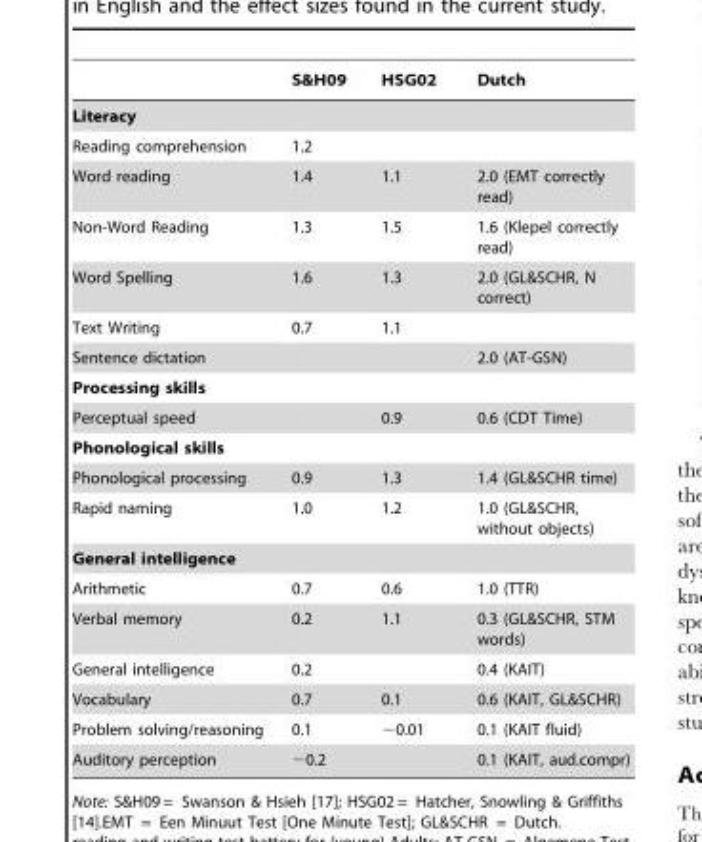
<table><thead><tr><td></td><td>S&amp;H09</td><td>HSG02</td><td>Dutch</td></tr></thead><tbody><tr><td colspan="4">Literacy</td></tr><tr><td>Reading comprehension</td><td>1.2</td><td></td><td></td></tr><tr><td>Word reading</td><td>1.4</td><td>1.1</td><td>2.0 (EMT correctly read)</td></tr><tr><td>Non-Word Reading</td><td>1.3</td><td>1.5</td><td>1.6 (Klepel correctly read)</td></tr><tr><td>Word Spelling</td><td>1.6</td><td>1.3</td><td>2.0 (GL&amp;SCHR, N correct)</td></tr><tr><td>Text Writing</td><td>0.7</td><td>1.1</td><td></td></tr><tr><td>Sentence dictation</td><td></td><td></td><td>2.0 (AT-GSN)</td></tr><tr><td colspan="4">Processing skills</td></tr><tr><td>Perceptual speed</td><td></td><td>0.9</td><td>0.6 (CDT Time)</td></tr><tr><td colspan="4">Phonological skills</td></tr><tr><td>Phonological processing</td><td>0.9</td><td>1.3</td><td>1.4 (GL&amp;SCHR time)</td></tr><tr><td>Rapid naming</td><td>1.0</td><td>1.2</td><td>1.0 (GL&amp;SCHR, without objects)</td></tr><tr><td colspan="4">General intelligence</td></tr><tr><td>Arithmetic</td><td>0.7</td><td>0.6</td><td>1.0 (TTR)</td></tr><tr><td>Verbal memory</td><td>0.2</td><td>1.1</td><td>0.3 (GL&amp;SCHR, STM words)</td></tr><tr><td>General intelligence</td><td>0.2</td><td></td><td>0.4 (KAIT)</td></tr><tr><td>Vocabulary</td><td>0.7</td><td>0.1</td><td>0.6 (KAIT, GL&amp;SCHR)</td></tr><tr><td>Problem solving/reasoning</td><td>0.1</td><td>−0.01</td><td>0.1 (KAIT fluid)</td></tr><tr><td>Auditory perception</td><td>−0.2</td><td></td><td>0.1 (KAIT, aud.compr)</td></tr></tbody></table>